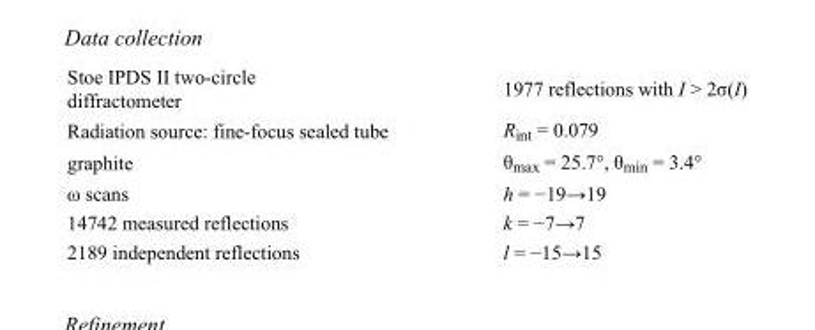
<table><tbody><tr><td>Stoe IPDS II two-circle diffractometer</td><td>1977 reflections with I &gt; 2σ(I)</td></tr><tr><td>Radiation source: fine-focus sealed tube</td><td>R<sub>int</sub> = 0.079</td></tr><tr><td>graphite</td><td>θ<sub>max</sub> = 25.7°, θ<sub>min</sub> = 3.4°</td></tr><tr><td>ω scans</td><td>h = −19→19</td></tr><tr><td>14742 measured reflections</td><td>k = −7→7</td></tr><tr><td>2189 independent reflections</td><td>l = −15→15</td></tr></tbody></table>